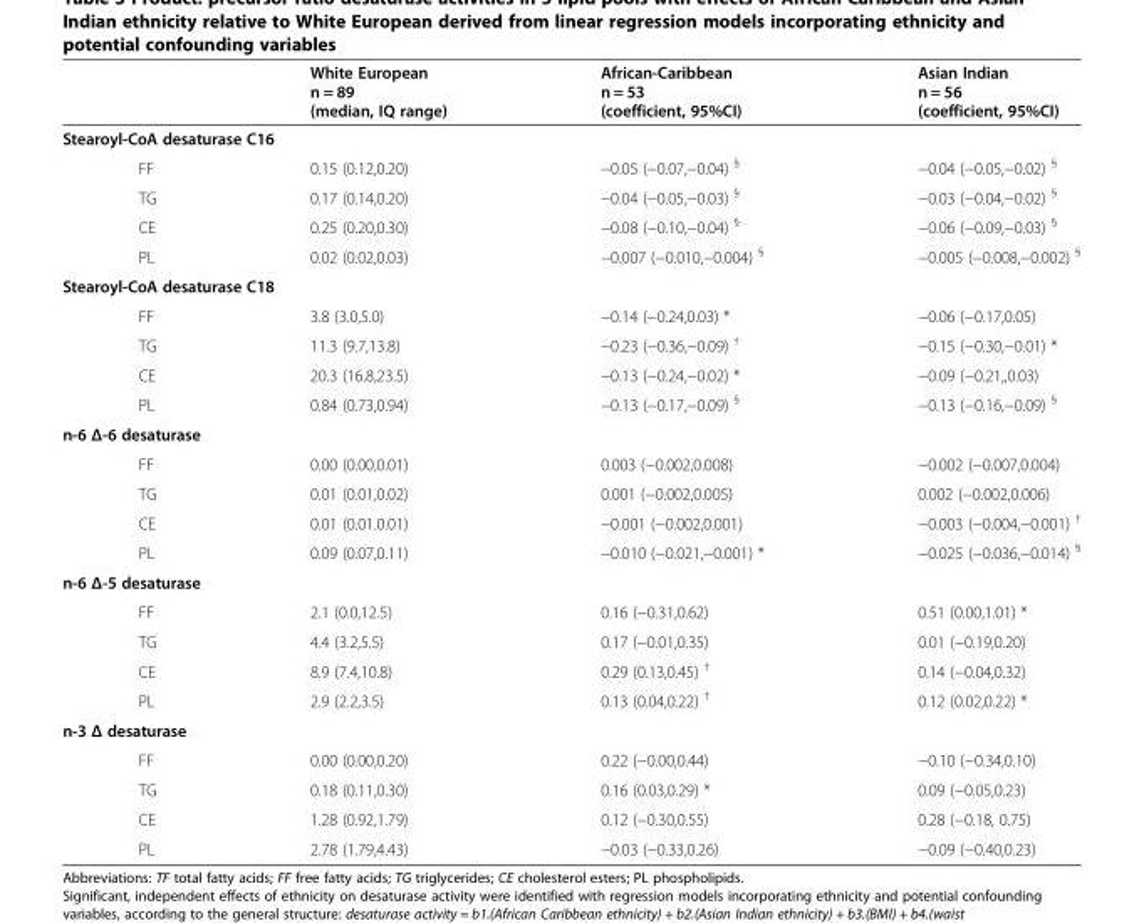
<table><thead><tr><td></td><td>White European n = 89 (median, IQ range)</td><td>African-Caribbean n = 53 (coefficient, 95%CI)</td><td>Asian Indian n = 56 (coefficient, 95%CI)</td></tr></thead><tbody><tr><td colspan="4">Stearoyl-CoA desaturase C16</td></tr><tr><td>FF</td><td>0.15 (0.12,0.20)</td><td>−0.05 (−0.07,−0.04) <sup>§</sup></td><td>−0.04 (−0.05,−0.02) <sup>§</sup></td></tr><tr><td>TG</td><td>0.17 (0.14,0.20)</td><td>−0.04 (−0.05,−0.03) <sup>§</sup></td><td>−0.03 (−0.04,−0.02) <sup>§</sup></td></tr><tr><td>CE</td><td>0.25 (0.20,0.30)</td><td>−0.08 (−0.10,−0.04) <sup>§</sup></td><td>−0.06 (−0.09,−0.03) <sup>§</sup></td></tr><tr><td>PL</td><td>0.02 (0.02,0.03)</td><td>−0.007 (−0.010,−0.004) <sup>§</sup></td><td>−0.005 (−0.008,−0.002) <sup>§</sup></td></tr><tr><td colspan="4">Stearoyl-CoA desaturase C18</td></tr><tr><td>FF</td><td>3.8 (3.0,5.0)</td><td>−0.14 (−0.24,0.03) *</td><td>−0.06 (−0.17,0.05)</td></tr><tr><td>TG</td><td>11.3 (9.7,13.8)</td><td>−0.23 (−0.36,−0.09) <sup>†</sup></td><td>−0.15 (−0.30,−0.01) *</td></tr><tr><td>CE</td><td>20.3 (16.8,23.5)</td><td>−0.13 (−0.24,−0.02) *</td><td>−0.09 (−0.21,,0.03)</td></tr><tr><td>PL</td><td>0.84 (0.73,0.94)</td><td>−0.13 (−0.17,−0.09) <sup>§</sup></td><td>−0.13 (−0.16,−0.09) <sup>§</sup></td></tr><tr><td colspan="4">n-6 Δ-6 desaturase</td></tr><tr><td>FF</td><td>0.00 (0.00,0.01)</td><td>0.003 (−0.002,0.008)</td><td>−0.002 (−0.007,0.004)</td></tr><tr><td>TG</td><td>0.01 (0.01,0.02)</td><td>0.001 (−0.002,0.005)</td><td>0.002 (−0.002,0.006)</td></tr><tr><td>CE</td><td>0.01 (0.01.0.01)</td><td>−0.001 (−0.002,0.001)</td><td>−0.003 (−0.004,−0.001) <sup>†</sup></td></tr><tr><td>PL</td><td>0.09 (0.07,0.11)</td><td>−0.010 (−0.021,−0.001) *</td><td>−0.025 (−0.036,−0.014) <sup>§</sup></td></tr><tr><td colspan="4">n-6 Δ-5 desaturase</td></tr><tr><td>FF</td><td>2.1 (0.0,12.5)</td><td>0.16 (−0.31,0.62)</td><td>0.51 (0.00,1.01) *</td></tr><tr><td>TG</td><td>4.4 (3.2,5.5)</td><td>0.17 (−0.01,0.35)</td><td>0.01 (−0.19,0.20)</td></tr><tr><td>CE</td><td>8.9 (7.4,10.8)</td><td>0.29 (0.13,0.45) <sup>†</sup></td><td>0.14 (−0.04,0.32)</td></tr><tr><td>PL</td><td>2.9 (2.2,3.5)</td><td>0.13 (0.04,0.22) <sup>†</sup></td><td>0.12 (0.02,0.22) *</td></tr><tr><td colspan="4">n-3 Δ desaturase</td></tr><tr><td>FF</td><td>0.00 (0.00,0.20)</td><td>0.22 (−0.00,0.44)</td><td>−0.10 (−0.34,0.10)</td></tr><tr><td>TG</td><td>0.18 (0.11,0.30)</td><td>0.16 (0.03,0.29) *</td><td>0.09 (−0.05,0.23)</td></tr><tr><td>CE</td><td>1.28 (0.92,1.79)</td><td>0.12 (−0.30,0.55)</td><td>0.28 (−0.18, 0.75)</td></tr><tr><td>PL</td><td>2.78 (1.79,4.43)</td><td>−0.03 (−0.33,0.26)</td><td>−0.09 (−0.40,0.23)</td></tr></tbody></table>